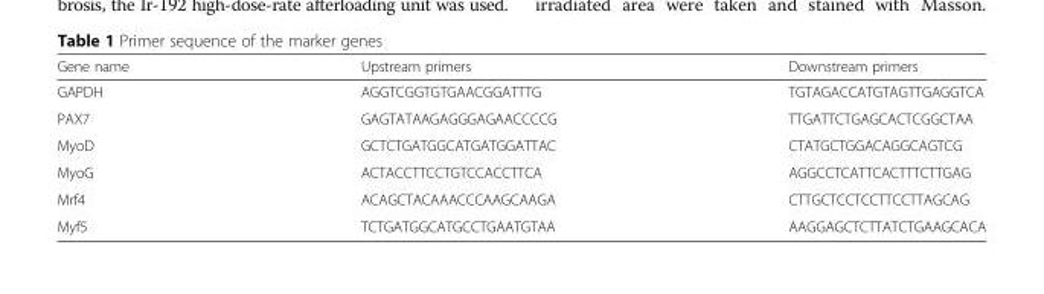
<table><thead><tr><td>Gene name</td><td>Upstream primers</td><td>Downstream primers</td></tr></thead><tbody><tr><td>GAPDH</td><td>AGGTCGGTGTGAACGGATTTG</td><td>TGTAGACCATGTAGTTGAGGTCA</td></tr><tr><td>PAX7</td><td>GAGTATAAGAGGGAGAACCCCG</td><td>TTGATTCTGAGCACTCGGCTAA</td></tr><tr><td>MyoD</td><td>GCTCTGATGGCATGATGGATTAC</td><td>CTATGCTGGACAGGCAGTCG</td></tr><tr><td>MyoG</td><td>ACTACCTTCCTGTCCACCTTCA</td><td>AGGCCTCATTCACTTTCTTGAG</td></tr><tr><td>Mrf4</td><td>ACAGCTACAAACCCAAGCAAGA</td><td>CTTGCTCCTCCTTCCTTAGCAG</td></tr><tr><td>Myf5</td><td>TCTGATGGCATGCCTGAATGTAA</td><td>AAGGAGCTCTTATCTGAAGCACA</td></tr></tbody></table>